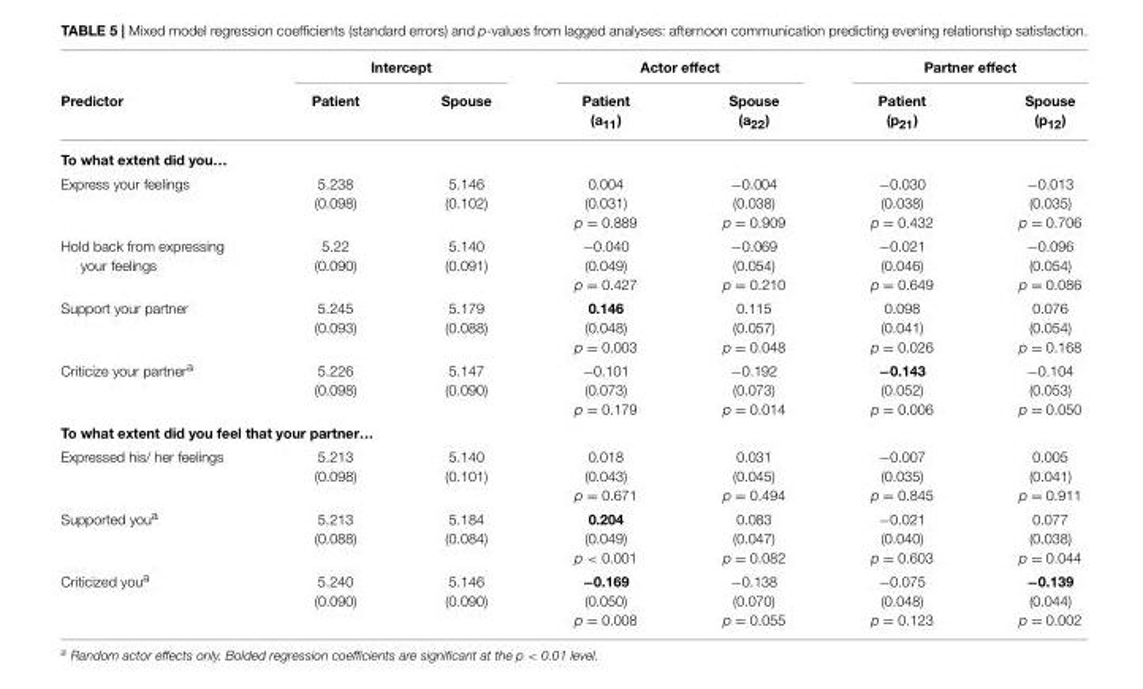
<table><thead><tr><td rowspan="2">Predictor</td><td colspan="2">Intercept</td><td colspan="2">Actor effect</td><td colspan="2">Partner effect</td></tr><tr><td>Patient</td><td>Spouse</td><td>Patient (a<sub>11</sub>)</td><td>Spouse (a<sub>22</sub>)</td><td>Patient (p<sub>21</sub>)</td><td>Spouse (p<sub>12</sub>)</td></tr></thead><tbody><tr><td colspan="7">To what extent did you…</td></tr><tr><td>Express your feelings</td><td>5.238 (0.098)</td><td>5.146 (0.102)</td><td>0.004 (0.031) p = 0.889</td><td>−0.004 (0.038) p = 0.909</td><td>−0.030 (0.038) p = 0.432</td><td>−0.013 (0.035) p = 0.706</td></tr><tr><td>Hold back from expressing your feelings</td><td>5.22 (0.090)</td><td>5.140 (0.091)</td><td>−0.040 (0.049) p = 0.427</td><td>−0.069 (0.054) p = 0.210</td><td>−0.021 (0.046) p = 0.649</td><td>−0.096 (0.054) p = 0.086</td></tr><tr><td>Support your partner</td><td>5.245 (0.093)</td><td>5.179 (0.088)</td><td>0.146 (0.048) p = 0.003</td><td>0.115 (0.057) p = 0.048</td><td>0.098 (0.041) p = 0.026</td><td>0.076 (0.054) p = 0.168</td></tr><tr><td>Criticize your partner<sup>a</sup></td><td>5.226 (0.098)</td><td>5.147 (0.090)</td><td>−0.101 (0.073) p = 0.179</td><td>−0.192 (0.073) p = 0.014</td><td>−0.143 (0.052) p = 0.006</td><td>−0.104 (0.053) p = 0.050</td></tr><tr><td colspan="7">To what extent did you feel that your partner…</td></tr><tr><td>Expressed his/ her feelings</td><td>5.213 (0.098)</td><td>5.140 (0.101)</td><td>0.018 (0.043) p = 0.671</td><td>0.031 (0.045) p = 0.494</td><td>−0.007 (0.035) p = 0.845</td><td>0.005 (0.041) p = 0.911</td></tr><tr><td>Supported you<sup>a</sup></td><td>5.213 (0.088)</td><td>5.184 (0.084)</td><td>0.204 (0.049) p &lt; 0.001</td><td>0.083 (0.047) p = 0.082</td><td>−0.021 (0.040) p = 0.603</td><td>0.077 (0.038) p = 0.044</td></tr><tr><td>Criticized you<sup>a</sup></td><td>5.240 (0.090)</td><td>5.146 (0.090)</td><td>−0.169 (0.050) p = 0.008</td><td>−0.138 (0.070) p = 0.055</td><td>−0.075 (0.048) p = 0.123</td><td>−0.139 (0.044) p = 0.002</td></tr></tbody></table>